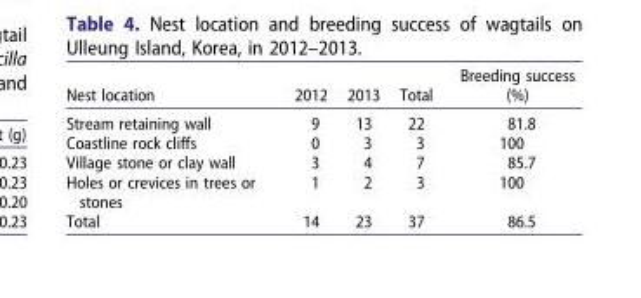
<table><thead><tr><td>Nest location</td><td>2012</td><td>2013</td><td>Total</td><td>Breeding success (%)</td></tr></thead><tbody><tr><td>Stream retaining wall</td><td>9</td><td>13</td><td>22</td><td>81.8</td></tr><tr><td>Coastline rock cliffs</td><td>0</td><td>3</td><td>3</td><td>100</td></tr><tr><td>Village stone or clay wall</td><td>3</td><td>4</td><td>7</td><td>85.7</td></tr><tr><td>Holes or crevices in trees or stones</td><td>1</td><td>2</td><td>3</td><td>100</td></tr><tr><td>Total</td><td>14</td><td>23</td><td>37</td><td>86.5</td></tr></tbody></table>